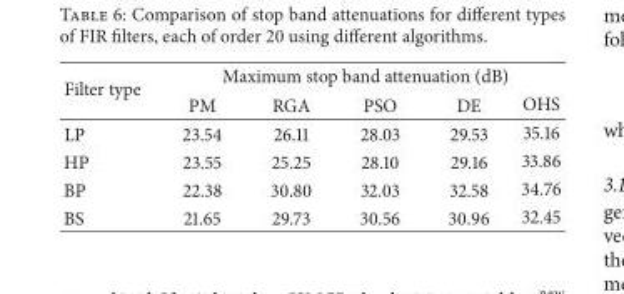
<table><thead><tr><td rowspan="2">Filter type</td><td colspan="5">Maximum stop band attenuation (dB)</td></tr><tr><td>PM</td><td>RGA</td><td>PSO</td><td>DE</td><td>OHS</td></tr></thead><tbody><tr><td>LP</td><td>23.54</td><td>26.11</td><td>28.03</td><td>29.53</td><td>35.16</td></tr><tr><td>HP</td><td>23.55</td><td>25.25</td><td>28.10</td><td>29.16</td><td>33.86</td></tr><tr><td>BP</td><td>22.38</td><td>30.80</td><td>32.03</td><td>32.58</td><td>34.76</td></tr><tr><td>BS</td><td>21.65</td><td>29.73</td><td>30.56</td><td>30.96</td><td>32.45</td></tr></tbody></table>